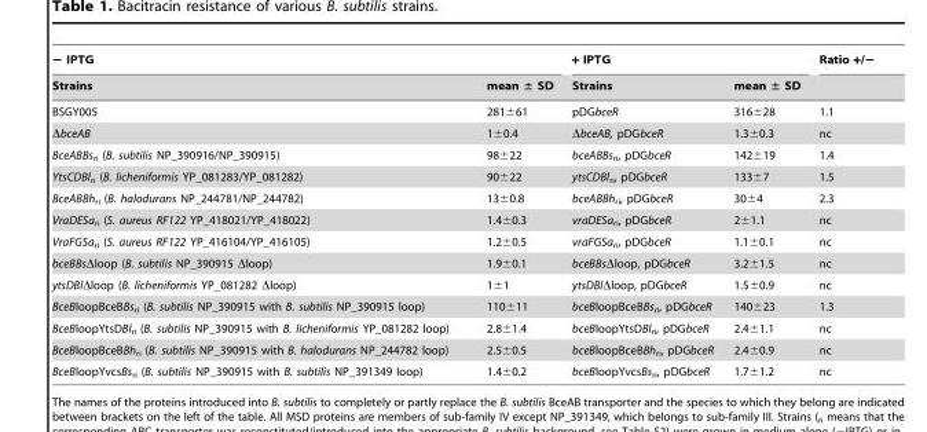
<table><thead><tr><td colspan="2">− IPTG</td><td colspan="2">+ IPTG</td><td rowspan="2">Ratio +/−</td></tr><tr><td>Strains</td><td>mean ± SD</td><td>Strains</td><td>mean ± SD</td></tr></thead><tbody><tr><td>BSGY005</td><td>281±61</td><td>pDGbceR</td><td>316±28</td><td>1.1</td></tr><tr><td>ΔbceAB</td><td>1±0.4</td><td>ΔbceAB, pDGbceR</td><td>1.3±0.3</td><td>nc</td></tr><tr><td>BceABBs<sub>ri</sub> (B. subtilis NP_390916/NP_390915)</td><td>98±22</td><td>bceABBs<sub>ri</sub>, pDGbceR</td><td>142±19</td><td>1.4</td></tr><tr><td>YtsCDBl<sub>ri</sub> (B. licheniformis YP_081283/YP_081282)</td><td>90±22</td><td>ytsCDBl<sub>ri</sub>, pDGbceR</td><td>133±7</td><td>1.5</td></tr><tr><td>BceABBh<sub>ri</sub> (B. halodurans NP_244781/NP_244782)</td><td>13±0.8</td><td>bceABBh<sub>ri</sub>, pDGbceR</td><td>30±4</td><td>2.3</td></tr><tr><td>VraDESa<sub>ri</sub> (S. aureus RF122 YP_418021/YP_418022)</td><td>1.4±0.3</td><td>vraDESa<sub>ri</sub>, pDGbceR</td><td>2±1.1</td><td>nc</td></tr><tr><td>VraFGSa<sub>ri</sub> (S. aureus RF122 YP_416104/YP_416105)</td><td>1.2±0.5</td><td>vraFGSa<sub>ri</sub>, pDGbceR</td><td>1.1±0.1</td><td>nc</td></tr><tr><td>bceBBsΔloop (B. subtilis NP_390915 Δloop)</td><td>1.9±0.1</td><td>bceBBsΔloop, pDGbceR</td><td>3.2±1.5</td><td>nc</td></tr><tr><td>ytsDBlΔloop (B. licheniformis YP_081282 Δloop)</td><td>1±1</td><td>ytsDBlΔloop, pDGbceR</td><td>1.5±0.9</td><td>nc</td></tr><tr><td>BceBloopBceBBs<sub>ri</sub> (B. subtilis NP_390915 with B. subtilis NP_390915 loop)</td><td>110±11</td><td>bceBloopBceBBs<sub>ri</sub>, pDGbceR</td><td>140±23</td><td>1.3</td></tr><tr><td>BceBloopYtsDBl<sub>ri</sub> (B. subtilis NP_390915 with B. licheniformis YP_081282 loop)</td><td>2.8±1.4</td><td>bceBloopYtsDBl<sub>ri</sub>, pDGbceR</td><td>2.4±1.1</td><td>nc</td></tr><tr><td>BceBloopBceBBh<sub>ri</sub> (B. subtilis NP_390915 with B. halodurans NP_244782 loop)</td><td>2.5±0.5</td><td>bceBloopBceBBh<sub>ri</sub>, pDGbceR</td><td>2.4±0.9</td><td>nc</td></tr><tr><td>BceBloopYvcsBs<sub>ri</sub> (B. subtilis NP_390915 with B. subtilis NP_391349 loop)</td><td>1.4±0.2</td><td>bceBloopYvcsBs<sub>ri</sub>, pDGbceR</td><td>1.7±1.2</td><td>nc</td></tr></tbody></table>